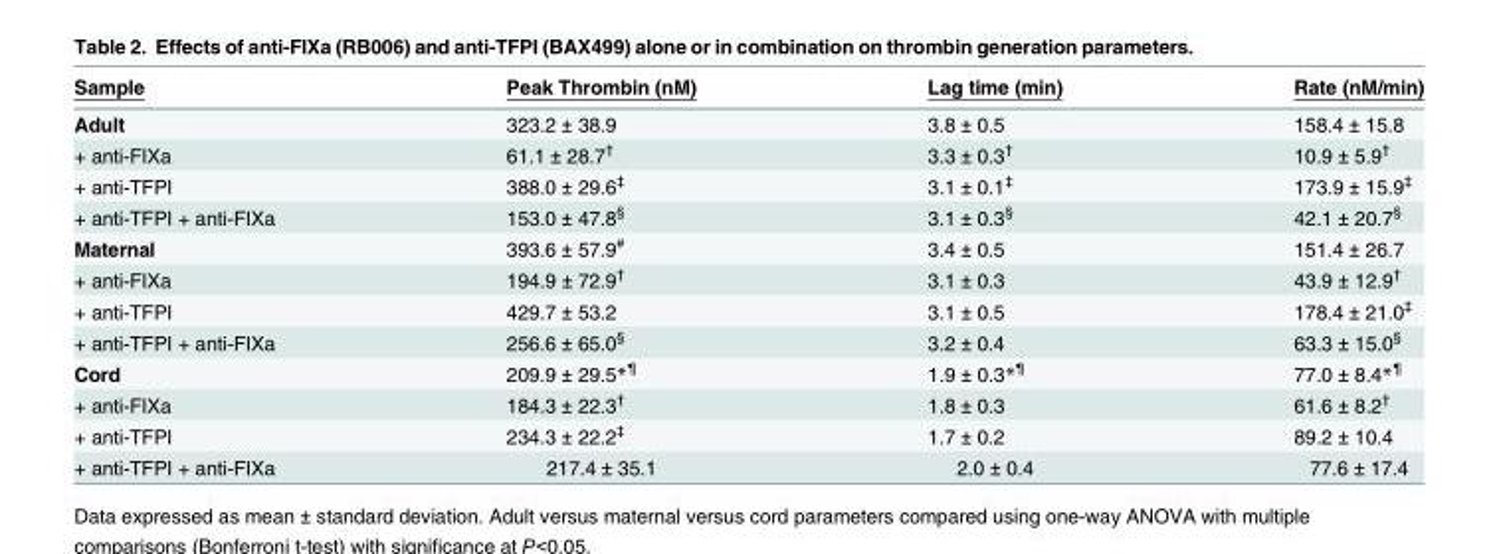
<table><thead><tr><td>Sample</td><td>Peak Thrombin (nM)</td><td>Lag time (min)</td><td>Rate (nM/min)</td></tr></thead><tbody><tr><td>Adult</td><td>323.2 ± 38.9</td><td>3.8 ± 0.5</td><td>158.4 ± 15.8</td></tr><tr><td>+ anti-FIXa</td><td>61.1 ± 28.7<sup>†</sup></td><td>3.3 ± 0.3<sup>†</sup></td><td>10.9 ± 5.9<sup>†</sup></td></tr><tr><td>+ anti-TFPI</td><td>388.0 ± 29.6<sup>‡</sup></td><td>3.1 ± 0.1<sup>‡</sup></td><td>173.9 ± 15.9<sup>‡</sup></td></tr><tr><td>+ anti-TFPI + anti-FIXa</td><td>153.0 ± 47.8<sup>§</sup></td><td>3.1 ± 0.3<sup>§</sup></td><td>42.1 ± 20.7<sup>§</sup></td></tr><tr><td>Maternal</td><td>393.6 ± 57.9<sup>#</sup></td><td>3.4 ± 0.5</td><td>151.4 ± 26.7</td></tr><tr><td>+ anti-FIXa</td><td>194.9 ± 72.9<sup>†</sup></td><td>3.1 ± 0.3</td><td>43.9 ± 12.9<sup>†</sup></td></tr><tr><td>+ anti-TFPI</td><td>429.7 ± 53.2</td><td>3.1 ± 0.5</td><td>178.4 ± 21.0<sup>‡</sup></td></tr><tr><td>+ anti-TFPI + anti-FIXa</td><td>256.6 ± 65.0<sup>§</sup></td><td>3.2 ± 0.4</td><td>63.3 ± 15.0<sup>§</sup></td></tr><tr><td>Cord</td><td>209.9 ± 29.5*<sup>¶</sup></td><td>1.9 ± 0.3*<sup>¶</sup></td><td>77.0 ± 8.4*<sup>¶</sup></td></tr><tr><td>+ anti-FIXa</td><td>184.3 ± 22.3<sup>†</sup></td><td>1.8 ± 0.3</td><td>61.6 ± 8.2<sup>†</sup></td></tr><tr><td>+ anti-TFPI</td><td>234.3 ± 22.2<sup>‡</sup></td><td>1.7 ± 0.2</td><td>89.2 ± 10.4</td></tr><tr><td>+ anti-TFPI + anti-FIXa</td><td>217.4 ± 35.1</td><td>2.0 ± 0.4</td><td>77.6 ± 17.4</td></tr></tbody></table>